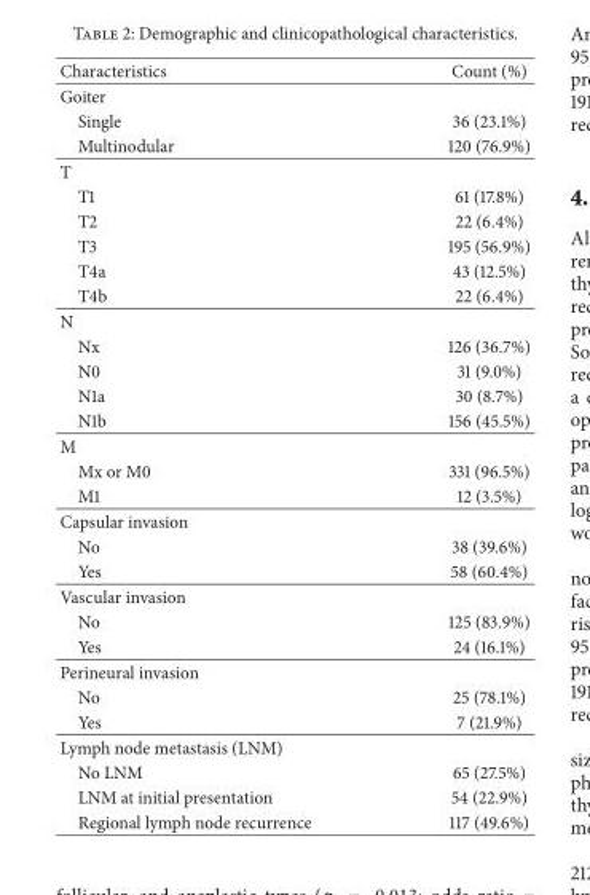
<table><thead><tr><td>Characteristics</td><td>Count (%)</td></tr></thead><tbody><tr><td colspan="2">Goiter</td></tr><tr><td>Single</td><td>36 (23.1%)</td></tr><tr><td>Multinodular</td><td>120 (76.9%)</td></tr><tr><td colspan="2">T</td></tr><tr><td>T1</td><td>61 (17.8%)</td></tr><tr><td>T2</td><td>22 (6.4%)</td></tr><tr><td>T3</td><td>195 (56.9%)</td></tr><tr><td>T4a</td><td>43 (12.5%)</td></tr><tr><td>T4b</td><td>22 (6.4%)</td></tr><tr><td colspan="2">N</td></tr><tr><td>Nx</td><td>126 (36.7%)</td></tr><tr><td>N0</td><td>31 (9.0%)</td></tr><tr><td>N1a</td><td>30 (8.7%)</td></tr><tr><td>N1b</td><td>156 (45.5%)</td></tr><tr><td colspan="2">M</td></tr><tr><td>Mx or M0</td><td>331 (96.5%)</td></tr><tr><td>M1</td><td>12 (3.5%)</td></tr><tr><td colspan="2">Capsular invasion</td></tr><tr><td>No</td><td>38 (39.6%)</td></tr><tr><td>Yes</td><td>58 (60.4%)</td></tr><tr><td colspan="2">Vascular invasion</td></tr><tr><td>No</td><td>125 (83.9%)</td></tr><tr><td>Yes</td><td>24 (16.1%)</td></tr><tr><td colspan="2">Perineural invasion</td></tr><tr><td>No</td><td>25 (78.1%)</td></tr><tr><td>Yes</td><td>7 (21.9%)</td></tr><tr><td colspan="2">Lymph node metastasis (LNM)</td></tr><tr><td>No LNM</td><td>65 (27.5%)</td></tr><tr><td>LNM at initial presentation</td><td>54 (22.9%)</td></tr><tr><td>Regional lymph node recurrence</td><td>117 (49.6%)</td></tr></tbody></table>